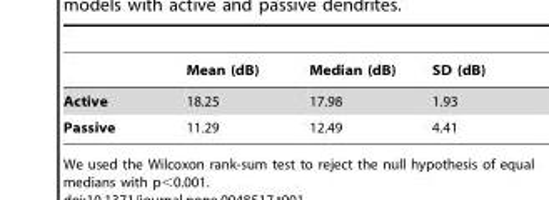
<table><thead><tr><td></td><td>Mean (dB)</td><td>Median (dB)</td><td>SD (dB)</td></tr></thead><tbody><tr><td>Active</td><td>18.25</td><td>17.98</td><td>1.93</td></tr><tr><td>Passive</td><td>11.29</td><td>12.49</td><td>4.41</td></tr></tbody></table>